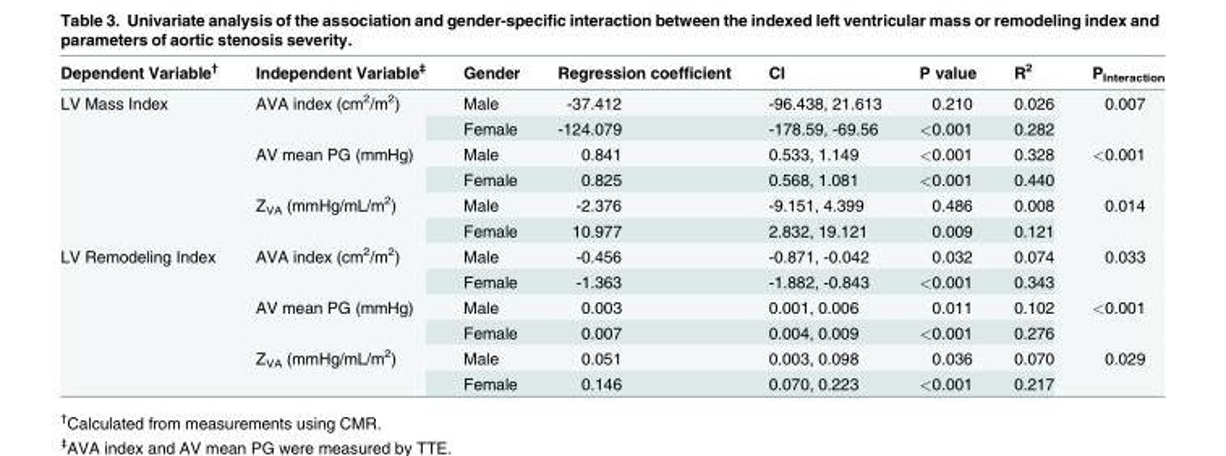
<table><thead><tr><td>Dependent Variable<sup>†</sup></td><td>Independent Variable<sup>‡</sup></td><td>Gender</td><td>Regression coefficient</td><td>CI</td><td>P value</td><td>R<sup>2</sup></td><td>P<sub>Interaction</sub></td></tr></thead><tbody><tr><td rowspan="6">LV Mass Index</td><td rowspan="2">AVA index (cm<sup>2</sup>/m<sup>2</sup>)</td><td>Male</td><td>-37.412</td><td>-96.438, 21.613</td><td>0.210</td><td>0.026</td><td rowspan="2">0.007</td></tr><tr><td>Female</td><td>-124.079</td><td>-178.59, -69.56</td><td>&lt;0.001</td><td>0.282</td></tr><tr><td rowspan="2">AV mean PG (mmHg)</td><td>Male</td><td>0.841</td><td>0.533, 1.149</td><td>&lt;0.001</td><td>0.328</td><td rowspan="2">&lt;0.001</td></tr><tr><td>Female</td><td>0.825</td><td>0.568, 1.081</td><td>&lt;0.001</td><td>0.440</td></tr><tr><td rowspan="2">Z<sub>VA</sub> (mmHg/mL/m<sup>2</sup>)</td><td>Male</td><td>-2.376</td><td>-9.151, 4.399</td><td>0.486</td><td>0.008</td><td rowspan="2">0.014</td></tr><tr><td>Female</td><td>10.977</td><td>2.832, 19.121</td><td>0.009</td><td>0.121</td></tr><tr><td rowspan="6">LV Remodeling Index</td><td rowspan="2">AVA index (cm<sup>2</sup>/m<sup>2</sup>)</td><td>Male</td><td>-0.456</td><td>-0.871, -0.042</td><td>0.032</td><td>0.074</td><td rowspan="2">0.033</td></tr><tr><td>Female</td><td>-1.363</td><td>-1.882, -0.843</td><td>&lt;0.001</td><td>0.343</td></tr><tr><td rowspan="2">AV mean PG (mmHg)</td><td>Male</td><td>0.003</td><td>0.001, 0.006</td><td>0.011</td><td>0.102</td><td rowspan="2">&lt;0.001</td></tr><tr><td>Female</td><td>0.007</td><td>0.004, 0.009</td><td>&lt;0.001</td><td>0.276</td></tr><tr><td rowspan="2">Z<sub>VA</sub> (mmHg/mL/m<sup>2</sup>)</td><td>Male</td><td>0.051</td><td>0.003, 0.098</td><td>0.036</td><td>0.070</td><td rowspan="2">0.029</td></tr><tr><td>Female</td><td>0.146</td><td>0.070, 0.223</td><td>&lt;0.001</td><td>0.217</td></tr></tbody></table>